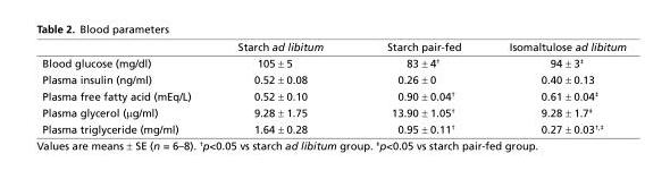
<table><thead><tr><td></td><td>Starch ad libitum</td><td>Starch pair-fed</td><td>Isomaltulose ad libitum</td></tr></thead><tbody><tr><td>Blood glucose (mg/dl)</td><td>105 ± 5</td><td>83 ± 4<sup>†</sup></td><td>94 ± 3<sup>‡</sup></td></tr><tr><td>Plasma insulin (ng/ml)</td><td>0.52 ± 0.08</td><td>0.26 ± 0</td><td>0.40 ± 0.13</td></tr><tr><td>Plasma free fatty acid (mEq/L)</td><td>0.52 ± 0.10</td><td>0.90 ± 0.04<sup>†</sup></td><td>0.61 ± 0.04<sup>‡</sup></td></tr><tr><td>Plasma glycerol (μg/ml)</td><td>9.28 ± 1.75</td><td>13.90 ± 1.05<sup>†</sup></td><td>9.28 ± 1.7<sup>‡</sup></td></tr><tr><td>Plasma triglyceride (mg/ml)</td><td>1.64 ± 0.28</td><td>0.95 ± 0.11<sup>†</sup></td><td>0.27 ± 0.03<sup>†,‡</sup></td></tr></tbody></table>